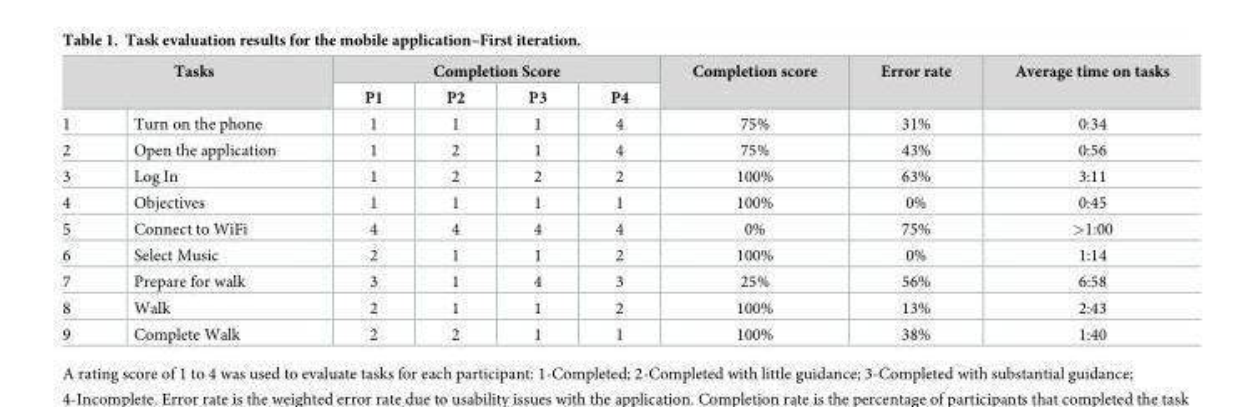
<table><thead><tr><td rowspan="2" colspan="2">Tasks</td><td colspan="4">Completion Score</td><td rowspan="3">Completion score 75%</td><td rowspan="3">Error rate 31%</td><td rowspan="3">Average time on tasks 0:34</td></tr><tr><td rowspan="2">P1 1</td><td rowspan="2">P2 1</td><td rowspan="2">P3 1</td><td rowspan="2">P4 4</td></tr><tr><td>1</td><td>Turn on the phone</td></tr></thead><tbody><tr><td>2</td><td>Open the application</td><td>1</td><td>2</td><td>1</td><td>4</td><td>75%</td><td>43%</td><td>0:56</td></tr><tr><td>3</td><td>Log In</td><td>1</td><td>2</td><td>2</td><td>2</td><td>100%</td><td>63%</td><td>3:11</td></tr><tr><td>4</td><td>Objectives</td><td>1</td><td>1</td><td>1</td><td>1</td><td>100%</td><td>0%</td><td>0:45</td></tr><tr><td>5</td><td>Connect to WiFi</td><td>4</td><td>4</td><td>4</td><td>4</td><td>0%</td><td>75%</td><td>&gt;1:00</td></tr><tr><td>6</td><td>Select Music</td><td>2</td><td>1</td><td>1</td><td>2</td><td>100%</td><td>0%</td><td>1:14</td></tr><tr><td>7</td><td>Prepare for walk</td><td>3</td><td>1</td><td>4</td><td>3</td><td>25%</td><td>56%</td><td>6:58</td></tr><tr><td>8</td><td>Walk</td><td>2</td><td>1</td><td>1</td><td>2</td><td>100%</td><td>13%</td><td>2:43</td></tr><tr><td>9</td><td>Complete Walk</td><td>2</td><td>2</td><td>1</td><td>1</td><td>100%</td><td>38%</td><td>1:40</td></tr></tbody></table>